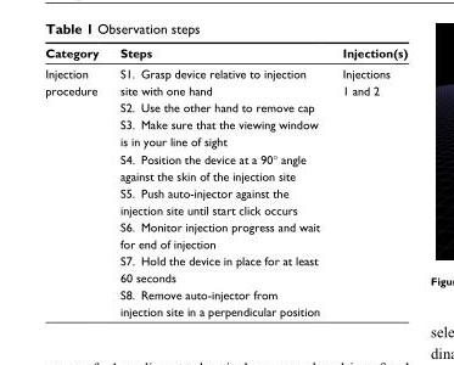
<table><thead><tr><td>Category</td><td>Steps</td><td>Injection(s)</td></tr></thead><tbody><tr><td>injection procedure</td><td>s1. grasp device relative to injection site with one hand s2. Use the other hand to remove cap s3. Make sure that the viewing window is in your line of sight s4. Position the device at a 90° angle against the skin of the injection site s5. Push auto-injector against the injection site until start click occurs s6. Monitor injection progress and wait for end of injection s7. hold the device in place for at least 60 seconds s8. remove auto-injector from injection site in a perpendicular position</td><td>injections 1 and 2</td></tr></tbody></table>